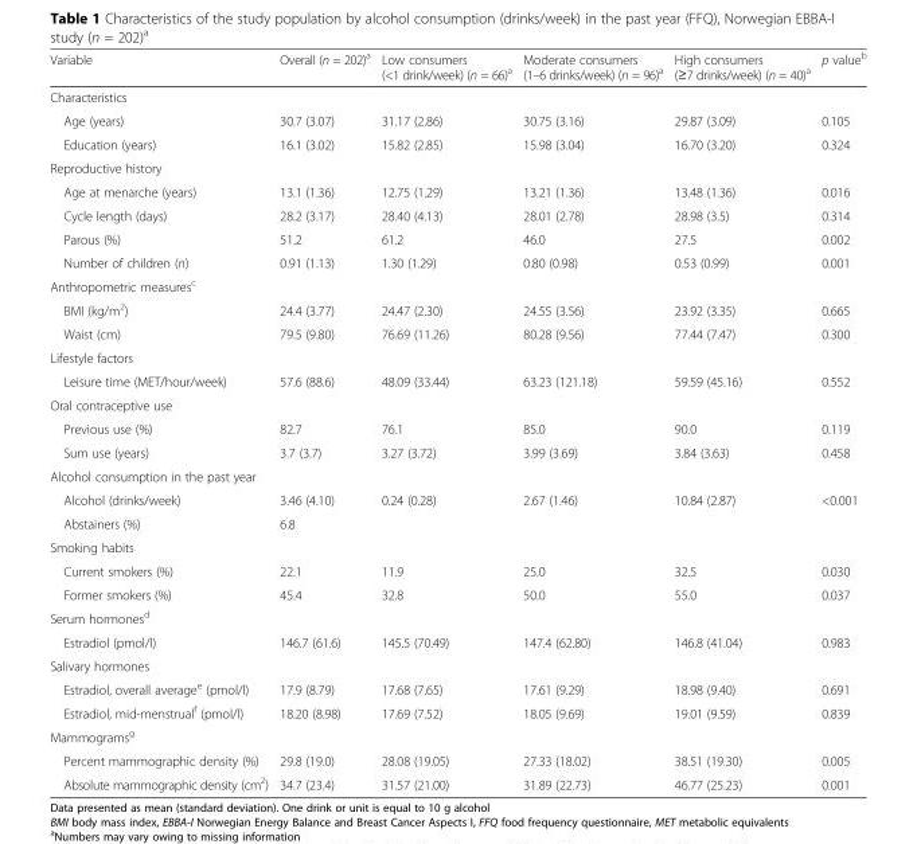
<table><thead><tr><td>Variable</td><td>Overall (n = 202)<sup>a</sup></td><td>Low consumers (&lt;1 drink/week) (n = 66)<sup>a</sup></td><td>Moderate consumers (1–6 drinks/week) (n = 96)<sup>a</sup></td><td>High consumers (≥7 drinks/week) (n = 40)<sup>a</sup></td><td>p value<sup>b</sup></td></tr></thead><tbody><tr><td colspan="6">Characteristics</td></tr><tr><td>Age (years)</td><td>30.7 (3.07)</td><td>31.17 (2.86)</td><td>30.75 (3.16)</td><td>29.87 (3.09)</td><td>0.105</td></tr><tr><td>Education (years)</td><td>16.1 (3.02)</td><td>15.82 (2.85)</td><td>15.98 (3.04)</td><td>16.70 (3.20)</td><td>0.324</td></tr><tr><td colspan="6">Reproductive history</td></tr><tr><td>Age at menarche (years)</td><td>13.1 (1.36)</td><td>12.75 (1.29)</td><td>13.21 (1.36)</td><td>13.48 (1.36)</td><td>0.016</td></tr><tr><td>Cycle length (days)</td><td>28.2 (3.17)</td><td>28.40 (4.13)</td><td>28.01 (2.78)</td><td>28.98 (3.5)</td><td>0.314</td></tr><tr><td>Parous (%)</td><td>51.2</td><td>61.2</td><td>46.0</td><td>27.5</td><td>0.002</td></tr><tr><td>Number of children (n)</td><td>0.91 (1.13)</td><td>1.30 (1.29)</td><td>0.80 (0.98)</td><td>0.53 (0.99)</td><td>0.001</td></tr><tr><td colspan="6">Anthropometric measures<sup>c</sup></td></tr><tr><td>BMI (kg/m<sup>2</sup>)</td><td>24.4 (3.77)</td><td>24.47 (2.30)</td><td>24.55 (3.56)</td><td>23.92 (3.35)</td><td>0.665</td></tr><tr><td>Waist (cm)</td><td>79.5 (9.80)</td><td>76.69 (11.26)</td><td>80.28 (9.56)</td><td>77.44 (7.47)</td><td>0.300</td></tr><tr><td colspan="6">Lifestyle factors</td></tr><tr><td>Leisure time (MET/hour/week)</td><td>57.6 (88.6)</td><td>48.09 (33.44)</td><td>63.23 (121.18)</td><td>59.59 (45.16)</td><td>0.552</td></tr><tr><td colspan="6">Oral contraceptive use</td></tr><tr><td>Previous use (%)</td><td>82.7</td><td>76.1</td><td>85.0</td><td>90.0</td><td>0.119</td></tr><tr><td>Sum use (years)</td><td>3.7 (3.7)</td><td>3.27 (3.72)</td><td>3.99 (3.69)</td><td>3.84 (3.63)</td><td>0.458</td></tr><tr><td colspan="6">Alcohol consumption in the past year</td></tr><tr><td>Alcohol (drinks/week)</td><td>3.46 (4.10)</td><td>0.24 (0.28)</td><td>2.67 (1.46)</td><td>10.84 (2.87)</td><td>&lt;0.001</td></tr><tr><td>Abstainers (%)</td><td>6.8</td><td></td><td></td><td></td><td></td></tr><tr><td colspan="6">Smoking habits</td></tr><tr><td>Current smokers (%)</td><td>22.1</td><td>11.9</td><td>25.0</td><td>32.5</td><td>0.030</td></tr><tr><td>Former smokers (%)</td><td>45.4</td><td>32.8</td><td>50.0</td><td>55.0</td><td>0.037</td></tr><tr><td colspan="6">Serum hormones<sup>d</sup></td></tr><tr><td>Estradiol (pmol/l)</td><td>146.7 (61.6)</td><td>145.5 (70.49)</td><td>147.4 (62.80)</td><td>146.8 (41.04)</td><td>0.983</td></tr><tr><td colspan="6">Salivary hormones</td></tr><tr><td>Estradiol, overall average<sup>e</sup> (pmol/l)</td><td>17.9 (8.79)</td><td>17.68 (7.65)</td><td>17.61 (9.29)</td><td>18.98 (9.40)</td><td>0.691</td></tr><tr><td>Estradiol, mid-menstrual<sup>f</sup> (pmol/l)</td><td>18.20 (8.98)</td><td>17.69 (7.52)</td><td>18.05 (9.69)</td><td>19.01 (9.59)</td><td>0.839</td></tr><tr><td colspan="6">Mammograms<sup>g</sup></td></tr><tr><td>Percent mammographic density (%)</td><td>29.8 (19.0)</td><td>28.08 (19.05)</td><td>27.33 (18.02)</td><td>38.51 (19.30)</td><td>0.005</td></tr><tr><td>Absolute mammographic density (cm<sup>2</sup>)</td><td>34.7 (23.4)</td><td>31.57 (21.00)</td><td>31.89 (22.73)</td><td>46.77 (25.23)</td><td>0.001</td></tr></tbody></table>